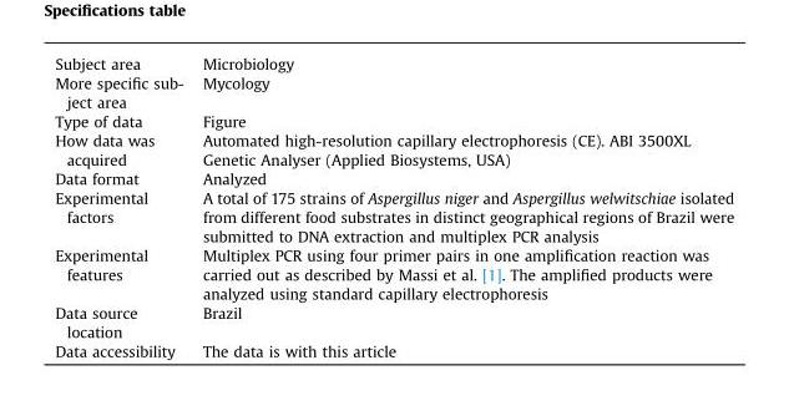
<table><tbody><tr><td>Subject area</td><td>Microbiology</td></tr><tr><td>More specific sub- ject area</td><td>Mycology</td></tr><tr><td>Type of data</td><td>Figure</td></tr><tr><td>How data was acquired</td><td>Automated high-resolution capillary electrophoresis (CE). ABI 3500XL Genetic Analyser (Applied Biosystems, USA)</td></tr><tr><td>Data format</td><td>Analyzed</td></tr><tr><td>Experimental factors</td><td>A total of 175 strains of Aspergillus niger and Aspergillus welwitschiae isolated from different food substrates in distinct geographical regions of Brazil were submitted to DNA extraction and multiplex PCR analysis</td></tr><tr><td>Experimental features</td><td>Multiplex PCR using four primer pairs in one amplification reaction was carried out as described by Massi et al. [1]. The amplified products were analyzed using standard capillary electrophoresis</td></tr><tr><td>Data source location</td><td>Brazil</td></tr><tr><td>Data accessibility</td><td>The data is with this article</td></tr></tbody></table>